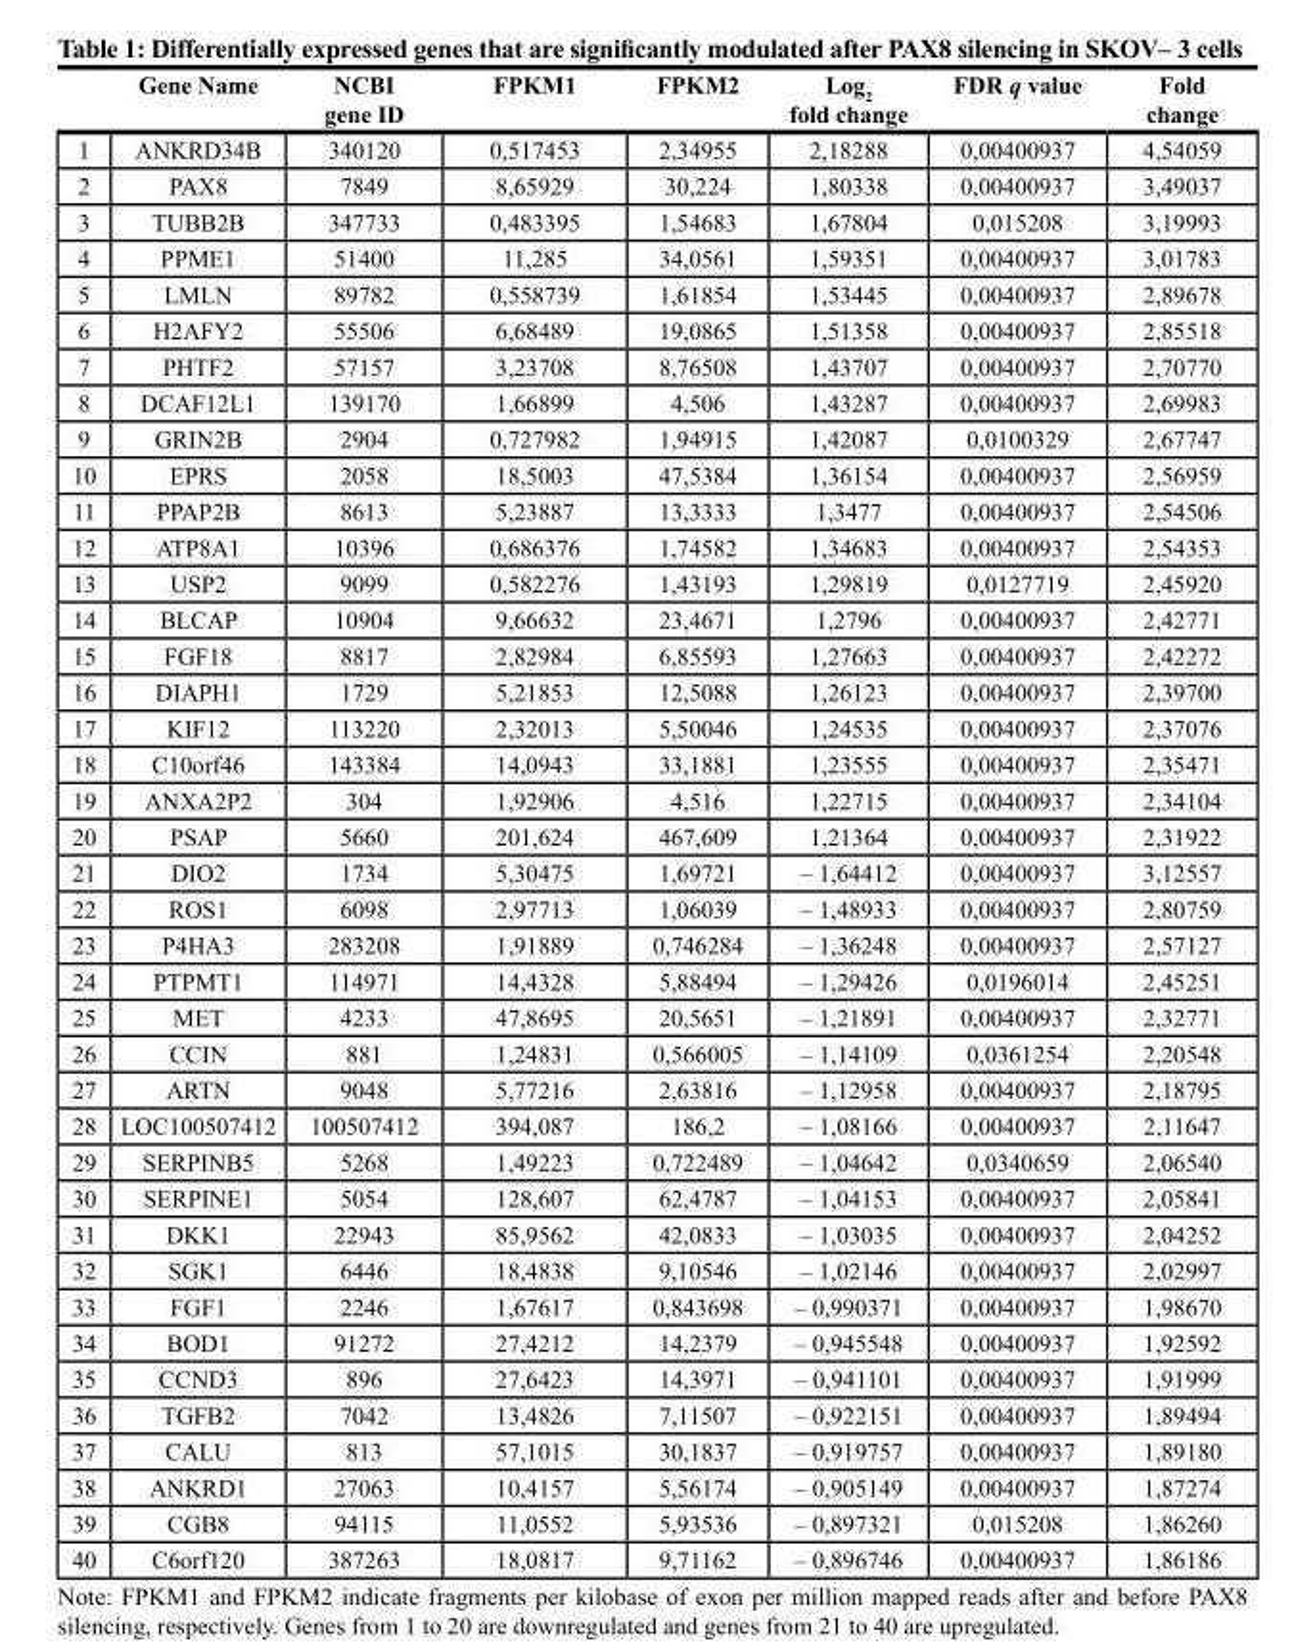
<table><thead><tr><td></td><td>Gene Name</td><td>NCBI gene ID</td><td>FPKM1</td><td>FPKM2</td><td>Log<sub>2</sub> fold change</td><td>FDR q value</td><td>Fold change</td></tr></thead><tbody><tr><td>1</td><td>ANKRD34B</td><td>340120</td><td>0,517453</td><td>2,34955</td><td>2,18288</td><td>0,00400937</td><td>4,54059</td></tr><tr><td>2</td><td>PAX8</td><td>7849</td><td>8,65929</td><td>30,224</td><td>1,80338</td><td>0,00400937</td><td>3,49037</td></tr><tr><td>3</td><td>TUBB2B</td><td>347733</td><td>0,483395</td><td>1,54683</td><td>1,67804</td><td>0,015208</td><td>3,19993</td></tr><tr><td>4</td><td>PPME1</td><td>51400</td><td>11,285</td><td>34,0561</td><td>1,59351</td><td>0,00400937</td><td>3,01783</td></tr><tr><td>5</td><td>LMLN</td><td>89782</td><td>0,558739</td><td>1,61854</td><td>1,53445</td><td>0,00400937</td><td>2,89678</td></tr><tr><td>6</td><td>H2AFY2</td><td>55506</td><td>6,68489</td><td>19,0865</td><td>1,51358</td><td>0,00400937</td><td>2,85518</td></tr><tr><td>7</td><td>PHTF2</td><td>57157</td><td>3,23708</td><td>8,76508</td><td>1,43707</td><td>0,00400937</td><td>2,70770</td></tr><tr><td>8</td><td>DCAF12L1</td><td>139170</td><td>1,66899</td><td>4,506</td><td>1,43287</td><td>0,00400937</td><td>2,69983</td></tr><tr><td>9</td><td>GRIN2B</td><td>2904</td><td>0,727982</td><td>1,94915</td><td>1,42087</td><td>0,0100329</td><td>2,67747</td></tr><tr><td>10</td><td>EPRS</td><td>2058</td><td>18,5003</td><td>47,5384</td><td>1,36154</td><td>0,00400937</td><td>2,56959</td></tr><tr><td>11</td><td>PPAP2B</td><td>8613</td><td>5,23887</td><td>13,3333</td><td>1,3477</td><td>0,00400937</td><td>2,54506</td></tr><tr><td>12</td><td>ATP8A1</td><td>10396</td><td>0,686376</td><td>1,74582</td><td>1,34683</td><td>0,00400937</td><td>2,54353</td></tr><tr><td>13</td><td>USP2</td><td>9099</td><td>0,582276</td><td>1,43193</td><td>1,29819</td><td>0,0127719</td><td>2,45920</td></tr><tr><td>14</td><td>BLCAP</td><td>10904</td><td>9,66632</td><td>23,4671</td><td>1,2796</td><td>0,00400937</td><td>2,42771</td></tr><tr><td>15</td><td>FGF18</td><td>8817</td><td>2,82984</td><td>6,85593</td><td>1,27663</td><td>0,00400937</td><td>2,42272</td></tr><tr><td>16</td><td>DIAPH1</td><td>1729</td><td>5,21853</td><td>12,5088</td><td>1,26123</td><td>0,00400937</td><td>2,39700</td></tr><tr><td>17</td><td>KIF12</td><td>113220</td><td>2,32013</td><td>5,50046</td><td>1,24535</td><td>0,00400937</td><td>2,37076</td></tr><tr><td>18</td><td>C10orf46</td><td>143384</td><td>14,0943</td><td>33,1881</td><td>1,23555</td><td>0,00400937</td><td>2,35471</td></tr><tr><td>19</td><td>ANXA2P2</td><td>304</td><td>1,92906</td><td>4,516</td><td>1,22715</td><td>0,00400937</td><td>2,34104</td></tr><tr><td>20</td><td>PSAP</td><td>5660</td><td>201,624</td><td>467,609</td><td>1,21364</td><td>0,00400937</td><td>2,31922</td></tr><tr><td>21</td><td>DIO2</td><td>1734</td><td>5,30475</td><td>1,69721</td><td>– 1,64412</td><td>0,00400937</td><td>3,12557</td></tr><tr><td>22</td><td>ROS1</td><td>6098</td><td>2,97713</td><td>1,06039</td><td>– 1,48933</td><td>0,00400937</td><td>2,80759</td></tr><tr><td>23</td><td>P4HA3</td><td>283208</td><td>1,91889</td><td>0,746284</td><td>– 1,36248</td><td>0,00400937</td><td>2,57127</td></tr><tr><td>24</td><td>PTPMT1</td><td>114971</td><td>14,4328</td><td>5,88494</td><td>– 1,29426</td><td>0,0196014</td><td>2,45251</td></tr><tr><td>25</td><td>MET</td><td>4233</td><td>47,8695</td><td>20,5651</td><td>– 1,21891</td><td>0,00400937</td><td>2,32771</td></tr><tr><td>26</td><td>CCIN</td><td>881</td><td>1,24831</td><td>0,566005</td><td>– 1,14109</td><td>0,0361254</td><td>2,20548</td></tr><tr><td>27</td><td>ARTN</td><td>9048</td><td>5,77216</td><td>2,63816</td><td>– 1,12958</td><td>0,00400937</td><td>2,18795</td></tr><tr><td>28</td><td>LOC100507412</td><td>100507412</td><td>394,087</td><td>186,2</td><td>– 1,08166</td><td>0,00400937</td><td>2,11647</td></tr><tr><td>29</td><td>SERPINB5</td><td>5268</td><td>1,49223</td><td>0,722489</td><td>– 1,04642</td><td>0,0340659</td><td>2,06540</td></tr><tr><td>30</td><td>SERPINE1</td><td>5054</td><td>128,607</td><td>62,4787</td><td>– 1,04153</td><td>0,00400937</td><td>2,05841</td></tr><tr><td>31</td><td>DKK1</td><td>22943</td><td>85,9562</td><td>42,0833</td><td>– 1,03035</td><td>0,00400937</td><td>2,04252</td></tr><tr><td>32</td><td>SGK1</td><td>6446</td><td>18,4838</td><td>9,10546</td><td>– 1,02146</td><td>0,00400937</td><td>2,02997</td></tr><tr><td>33</td><td>FGF1</td><td>2246</td><td>1,67617</td><td>0,843698</td><td>– 0,990371</td><td>0,00400937</td><td>1,98670</td></tr><tr><td>34</td><td>BOD1</td><td>91272</td><td>27,4212</td><td>14,2379</td><td>– 0,945548</td><td>0,00400937</td><td>1,92592</td></tr><tr><td>35</td><td>CCND3</td><td>896</td><td>27,6423</td><td>14,3971</td><td>– 0,941101</td><td>0,00400937</td><td>1,91999</td></tr><tr><td>36</td><td>TGFB2</td><td>7042</td><td>13,4826</td><td>7,11507</td><td>– 0,922151</td><td>0,00400937</td><td>1,89494</td></tr><tr><td>37</td><td>CALU</td><td>813</td><td>57,1015</td><td>30,1837</td><td>– 0,919757</td><td>0,00400937</td><td>1,89180</td></tr><tr><td>38</td><td>ANKRD1</td><td>27063</td><td>10,4157</td><td>5,56174</td><td>– 0,905149</td><td>0,00400937</td><td>1,87274</td></tr><tr><td>39</td><td>CGB8</td><td>94115</td><td>11,0552</td><td>5,93536</td><td>– 0,897321</td><td>0,015208</td><td>1,86260</td></tr><tr><td>40</td><td>C6orf120</td><td>387263</td><td>18,0817</td><td>9,71162</td><td>– 0,896746</td><td>0,00400937</td><td>1,86186</td></tr></tbody></table>